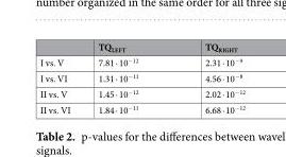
<table><thead><tr><td></td><td>TQ<sub>LEFT</sub></td><td>TQ<sub>RIGHT</sub></td></tr></thead><tbody><tr><td>I vs. V</td><td>7.81 ∙ 10<sup>−12</sup></td><td>2.31 ∙ 10<sup>−9</sup></td></tr><tr><td>I vs. VI</td><td>1.31 ∙ 10<sup>−11</sup></td><td>4.56 ∙ 10<sup>−8</sup></td></tr><tr><td>II vs. V</td><td>1.45 ∙ 10<sup>−12</sup></td><td>2.02 ∙ 10<sup>−12</sup></td></tr><tr><td>II vs. VI</td><td>1.84 ∙ 10<sup>−11</sup></td><td>6.68 ∙ 10<sup>−12</sup></td></tr></tbody></table>